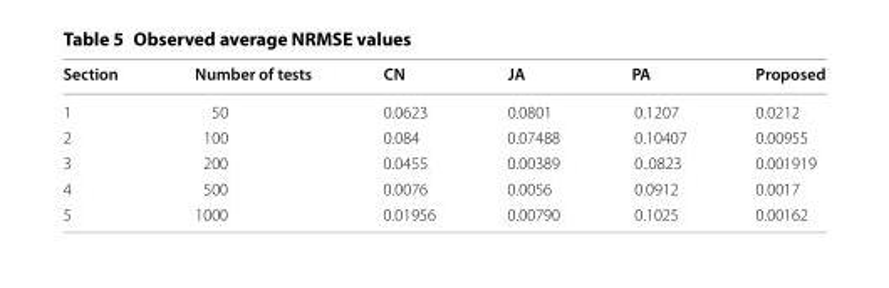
<table><thead><tr><td>Section</td><td>Number of tests</td><td>CN</td><td>JA</td><td>PA</td><td>Proposed</td></tr></thead><tbody><tr><td>1</td><td>50</td><td>0.0623</td><td>0.0801</td><td>0.1207</td><td>0.0212</td></tr><tr><td>2</td><td>100</td><td>0.084</td><td>0.07488</td><td>0.10407</td><td>0.00955</td></tr><tr><td>3</td><td>200</td><td>0.0455</td><td>0.00389</td><td>0..0823</td><td>0.001919</td></tr><tr><td>4</td><td>500</td><td>0.0076</td><td>0.0056</td><td>0.0912</td><td>0.0017</td></tr><tr><td>5</td><td>1000</td><td>0.01956</td><td>0.00790</td><td>0.1025</td><td>0.00162</td></tr></tbody></table>